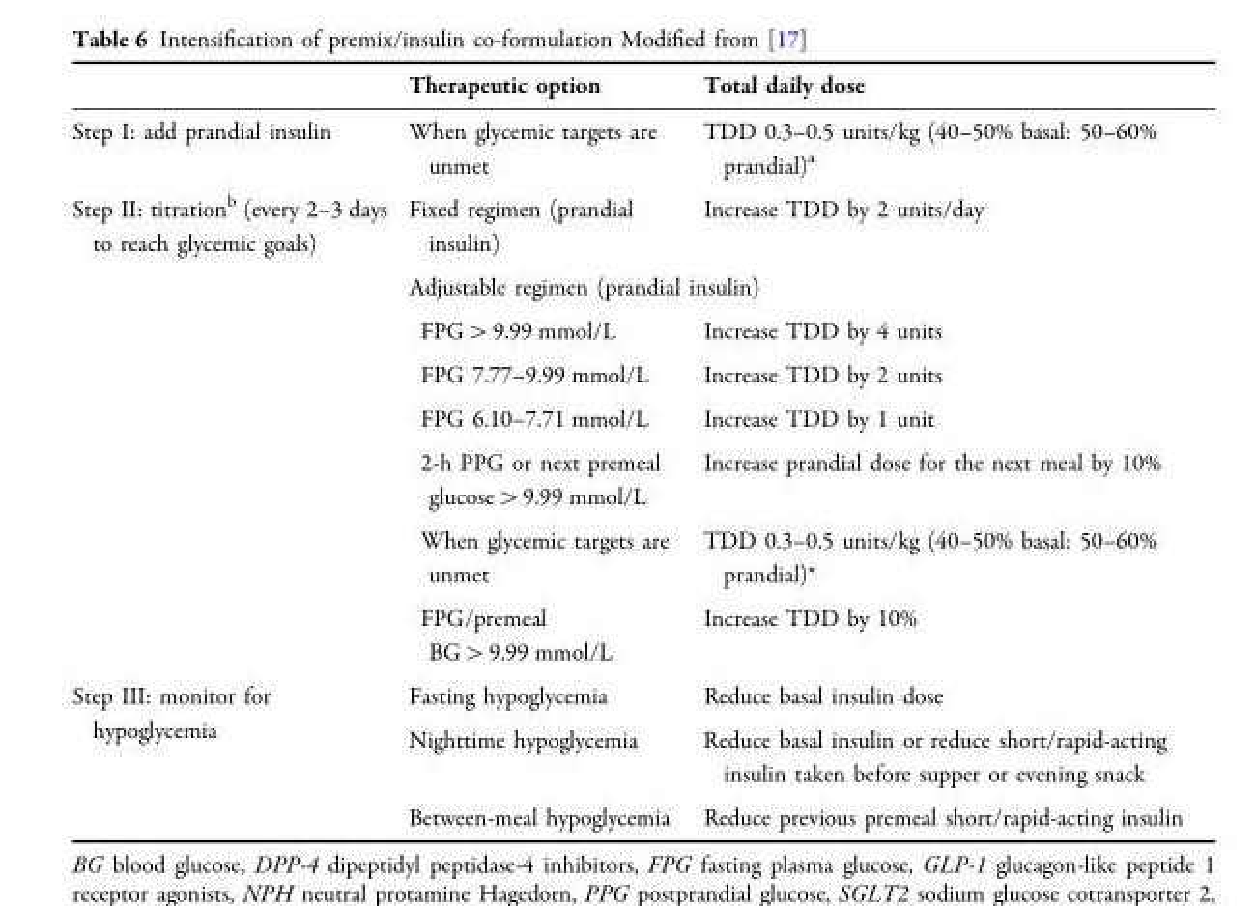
<table><thead><tr><td></td><td>Therapeutic option</td><td>Total daily dose</td></tr></thead><tbody><tr><td>Step I: add prandial insulin</td><td>When glycemic targets are unmet</td><td>TDD 0.3–0.5 units/kg (40–50% basal: 50–60% prandial)<sup>a</sup></td></tr><tr><td rowspan="8">Step II: titration<sup>b</sup> (every 2–3 days to reach glycemic goals)</td><td>Fixed regimen (prandial insulin)</td><td>Increase TDD by 2 units/day</td></tr><tr><td colspan="2">Adjustable regimen (prandial insulin)</td></tr><tr><td>FPG&gt;9.99 mmol/L</td><td>Increase TDD by 4 units</td></tr><tr><td>FPG 7.77–9.99 mmol/L</td><td>Increase TDD by 2 units</td></tr><tr><td>FPG 6.10–7.71 mmol/L</td><td>Increase TDD by 1 unit</td></tr><tr><td>2-h PPG or next premeal glucose&gt;9.99 mmol/L</td><td>Increase prandial dose for the next meal by 10%</td></tr><tr><td>When glycemic targets are unmet</td><td>TDD 0.3–0.5 units/kg (40–50% basal: 50–60% prandial)*</td></tr><tr><td>FPG/premeal BG&gt;9.99 mmol/L</td><td>Increase TDD by 10%</td></tr><tr><td rowspan="3">Step III: monitor for hypoglycemia</td><td>Fasting hypoglycemia</td><td>Reduce basal insulin dose</td></tr><tr><td>Nighttime hypoglycemia</td><td>Reduce basal insulin or reduce short/rapid-acting insulin taken before supper or evening snack</td></tr><tr><td>Between-meal hypoglycemia</td><td>Reduce previous premeal short/rapid-acting insulin</td></tr></tbody></table>